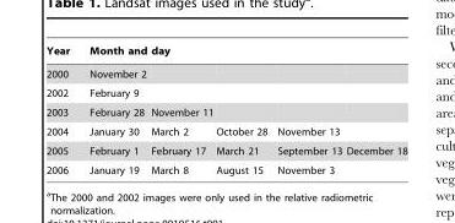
<table><thead><tr><td rowspan="2">Year 2000</td><td colspan="5">Month and day</td></tr><tr><td>November 2</td><td></td><td></td><td></td><td></td></tr></thead><tbody><tr><td>2002</td><td>February 9</td><td></td><td></td><td></td><td></td></tr><tr><td>2003</td><td>February 28</td><td>November 11</td><td></td><td></td><td></td></tr><tr><td>2004</td><td>January 30</td><td>March 2</td><td>October 28</td><td>November 13</td><td></td></tr><tr><td>2005</td><td>February 1</td><td>February 17</td><td>March 21</td><td>September 13</td><td>December 18</td></tr><tr><td>2006</td><td>January 19</td><td>March 8</td><td>August 15</td><td>November 3</td><td></td></tr></tbody></table>